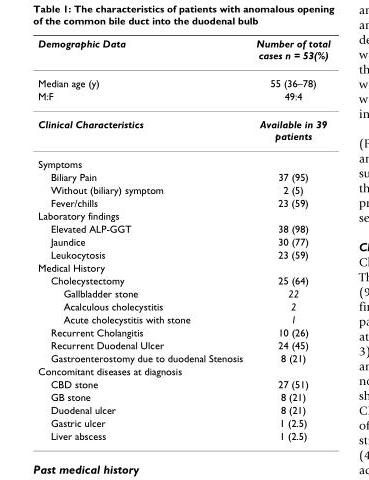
<table><thead><tr><td>Demographic Data</td><td>Number of total cases n = 53(%)</td></tr></thead><tbody><tr><td>Median age (y)</td><td>55 (36–78)</td></tr><tr><td>M:F</td><td>49:4</td></tr><tr><td>Clinical Characteristics</td><td>Available in 39 patients</td></tr><tr><td colspan="2">Symptoms</td></tr><tr><td>Biliary Pain</td><td>37 (95)</td></tr><tr><td>Without (biliary) symptom</td><td>2 (5)</td></tr><tr><td>Fever/chills</td><td>23 (59)</td></tr><tr><td colspan="2">Laboratory findings</td></tr><tr><td>Elevated ALP-GGT</td><td>38 (98)</td></tr><tr><td>Jaundice</td><td>30 (77)</td></tr><tr><td>Leukocytosis</td><td>23 (59)</td></tr><tr><td colspan="2">Medical History</td></tr><tr><td>Cholecystectomy</td><td>25 (64)</td></tr><tr><td>Gallbladder stone</td><td>22</td></tr><tr><td>Acalculous cholecystitis</td><td>2</td></tr><tr><td>Acute cholecystitis with stone</td><td>1</td></tr><tr><td>Recurrent Cholangitis</td><td>10 (26)</td></tr><tr><td>Recurrent Duodenal Ulcer</td><td>24 (45)</td></tr><tr><td>Gastroenterostomy due to duodenal Stenosis</td><td>8 (21)</td></tr><tr><td colspan="2">Concomitant diseases at diagnosis</td></tr><tr><td>CBD stone</td><td>27 (51)</td></tr><tr><td>GB stone</td><td>8 (21)</td></tr><tr><td>Duodenal ulcer</td><td>8 (21)</td></tr><tr><td>Gastric ulcer</td><td>1 (2.5)</td></tr><tr><td>Liver abscess</td><td>1 (2.5)</td></tr></tbody></table>